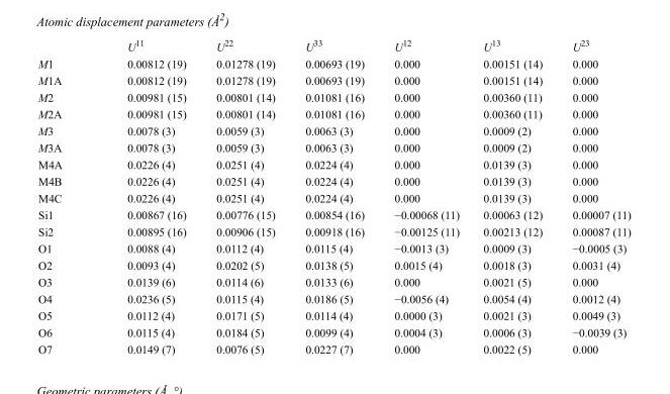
<table><thead><tr><td></td><td>U<sup>11</sup></td><td>U<sup>22</sup></td><td>U<sup>33</sup></td><td>U<sup>12</sup></td><td>U<sup>13</sup></td><td>U<sup>23</sup></td></tr></thead><tbody><tr><td>M1</td><td>0.00812 (19)</td><td>0.01278 (19)</td><td>0.00693 (19)</td><td>0.000</td><td>0.00151 (14)</td><td>0.000</td></tr><tr><td>M1A</td><td>0.00812 (19)</td><td>0.01278 (19)</td><td>0.00693 (19)</td><td>0.000</td><td>0.00151 (14)</td><td>0.000</td></tr><tr><td>M2</td><td>0.00981 (15)</td><td>0.00801 (14)</td><td>0.01081 (16)</td><td>0.000</td><td>0.00360 (11)</td><td>0.000</td></tr><tr><td>M2A</td><td>0.00981 (15)</td><td>0.00801 (14)</td><td>0.01081 (16)</td><td>0.000</td><td>0.00360 (11)</td><td>0.000</td></tr><tr><td>M3</td><td>0.0078 (3)</td><td>0.0059 (3)</td><td>0.0063 (3)</td><td>0.000</td><td>0.0009 (2)</td><td>0.000</td></tr><tr><td>M3A</td><td>0.0078 (3)</td><td>0.0059 (3)</td><td>0.0063 (3)</td><td>0.000</td><td>0.0009 (2)</td><td>0.000</td></tr><tr><td>M4A</td><td>0.0226 (4)</td><td>0.0251 (4)</td><td>0.0224 (4)</td><td>0.000</td><td>0.0139 (3)</td><td>0.000</td></tr><tr><td>M4B</td><td>0.0226 (4)</td><td>0.0251 (4)</td><td>0.0224 (4)</td><td>0.000</td><td>0.0139 (3)</td><td>0.000</td></tr><tr><td>M4C</td><td>0.0226 (4)</td><td>0.0251 (4)</td><td>0.0224 (4)</td><td>0.000</td><td>0.0139 (3)</td><td>0.000</td></tr><tr><td>Si1</td><td>0.00867 (16)</td><td>0.00776 (15)</td><td>0.00854 (16)</td><td>−0.00068 (11)</td><td>0.00063 (12)</td><td>0.00007 (11)</td></tr><tr><td>Si2</td><td>0.00895 (16)</td><td>0.00906 (15)</td><td>0.00918 (16)</td><td>−0.00125 (11)</td><td>0.00213 (12)</td><td>0.00087 (11)</td></tr><tr><td>O1</td><td>0.0088 (4)</td><td>0.0112 (4)</td><td>0.0115 (4)</td><td>−0.0013 (3)</td><td>0.0009 (3)</td><td>−0.0005 (3)</td></tr><tr><td>O2</td><td>0.0093 (4)</td><td>0.0202 (5)</td><td>0.0138 (5)</td><td>0.0015 (4)</td><td>0.0018 (3)</td><td>0.0031 (4)</td></tr><tr><td>O3</td><td>0.0139 (6)</td><td>0.0114 (6)</td><td>0.0133 (6)</td><td>0.000</td><td>0.0021 (5)</td><td>0.000</td></tr><tr><td>O4</td><td>0.0236 (5)</td><td>0.0115 (4)</td><td>0.0186 (5)</td><td>−0.0056 (4)</td><td>0.0054 (4)</td><td>0.0012 (4)</td></tr><tr><td>O5</td><td>0.0112 (4)</td><td>0.0171 (5)</td><td>0.0114 (4)</td><td>0.0000 (3)</td><td>0.0021 (3)</td><td>0.0049 (3)</td></tr><tr><td>O6</td><td>0.0115 (4)</td><td>0.0184 (5)</td><td>0.0099 (4)</td><td>0.0004 (3)</td><td>0.0006 (3)</td><td>−0.0039 (3)</td></tr><tr><td>O7</td><td>0.0149 (7)</td><td>0.0076 (5)</td><td>0.0227 (7)</td><td>0.000</td><td>0.0022 (5)</td><td>0.000</td></tr></tbody></table>